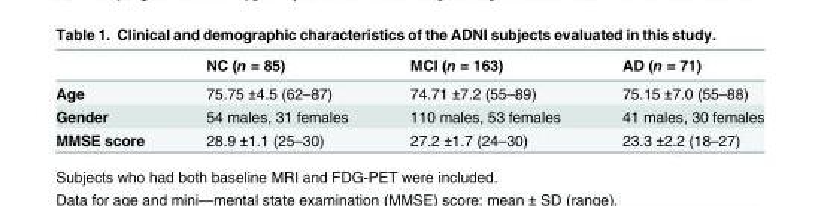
<table><thead><tr><td></td><td>NC (n = 85)</td><td>MCI (n = 163)</td><td>AD (n = 71)</td></tr></thead><tbody><tr><td>Age</td><td>75.75 ±4.5 (62–87)</td><td>74.71 ±7.2 (55–89)</td><td>75.15 ±7.0 (55–88)</td></tr><tr><td>Gender</td><td>54 males, 31 females</td><td>110 males, 53 females</td><td>41 males, 30 females</td></tr><tr><td>MMSE score</td><td>28.9 ±1.1 (25–30)</td><td>27.2 ±1.7 (24–30)</td><td>23.3 ±2.2 (18–27)</td></tr></tbody></table>